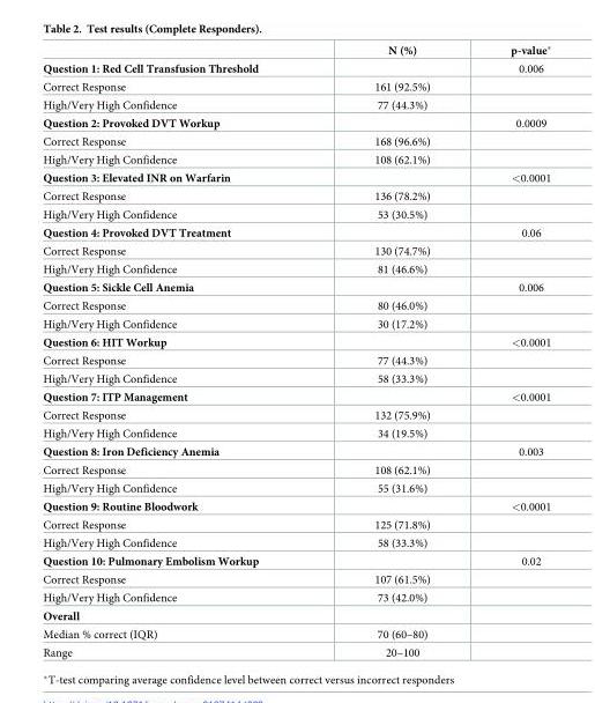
<table><thead><tr><td></td><td>N (%)</td><td>p-value*</td></tr></thead><tbody><tr><td>Question 1: Red Cell Transfusion Threshold</td><td></td><td>0.006</td></tr><tr><td>Correct Response</td><td>161 (92.5%)</td><td></td></tr><tr><td>High/Very High Confidence</td><td>77 (44.3%)</td><td></td></tr><tr><td>Question 2: Provoked DVT Workup</td><td></td><td>0.0009</td></tr><tr><td>Correct Response</td><td>168 (96.6%)</td><td></td></tr><tr><td>High/Very High Confidence</td><td>108 (62.1%)</td><td></td></tr><tr><td>Question 3: Elevated INR on Warfarin</td><td></td><td>&lt;0.0001</td></tr><tr><td>Correct Response</td><td>136 (78.2%)</td><td></td></tr><tr><td>High/Very High Confidence</td><td>53 (30.5%)</td><td></td></tr><tr><td>Question 4: Provoked DVT Treatment</td><td></td><td>0.06</td></tr><tr><td>Correct Response</td><td>130 (74.7%)</td><td></td></tr><tr><td>High/Very High Confidence</td><td>81 (46.6%)</td><td></td></tr><tr><td>Question 5: Sickle Cell Anemia</td><td></td><td>0.006</td></tr><tr><td>Correct Response</td><td>80 (46.0%)</td><td></td></tr><tr><td>High/Very High Confidence</td><td>30 (17.2%)</td><td></td></tr><tr><td>Question 6: HIT Workup</td><td></td><td>&lt;0.0001</td></tr><tr><td>Correct Response</td><td>77 (44.3%)</td><td></td></tr><tr><td>High/Very High Confidence</td><td>58 (33.3%)</td><td></td></tr><tr><td>Question 7: ITP Management</td><td></td><td>&lt;0.0001</td></tr><tr><td>Correct Response</td><td>132 (75.9%)</td><td></td></tr><tr><td>High/Very High Confidence</td><td>34 (19.5%)</td><td></td></tr><tr><td>Question 8: Iron Deficiency Anemia</td><td></td><td>0.003</td></tr><tr><td>Correct Response</td><td>108 (62.1%)</td><td></td></tr><tr><td>High/Very High Confidence</td><td>55 (31.6%)</td><td></td></tr><tr><td>Question 9: Routine Bloodwork</td><td></td><td>&lt;0.0001</td></tr><tr><td>Correct Response</td><td>125 (71.8%)</td><td></td></tr><tr><td>High/Very High Confidence</td><td>58 (33.3%)</td><td></td></tr><tr><td>Question 10: Pulmonary Embolism Workup</td><td></td><td>0.02</td></tr><tr><td>Correct Response</td><td>107 (61.5%)</td><td></td></tr><tr><td>High/Very High Confidence</td><td>73 (42.0%)</td><td></td></tr><tr><td colspan="3">Overall</td></tr><tr><td>Median % correct (IQR)</td><td>70 (60–80)</td><td></td></tr><tr><td>Range</td><td>20–100</td><td></td></tr></tbody></table>